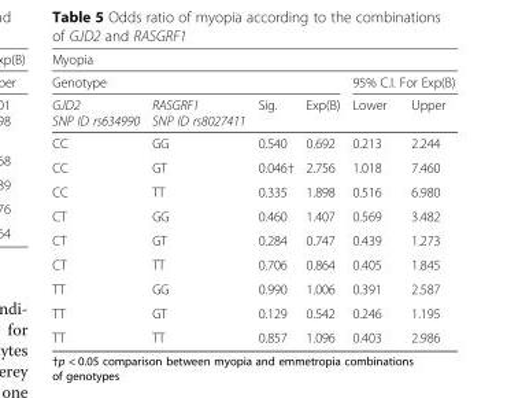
<table><thead><tr><td colspan="6">Myopia</td></tr><tr><td colspan="4">Genotype</td><td colspan="2">95% C.I. For Exp(B)</td></tr><tr><td>GJD2 SNP ID rs634990</td><td>RASGRF1 SNP ID rs8027411</td><td>Sig.</td><td>Exp(B)</td><td>Lower</td><td>Upper</td></tr></thead><tbody><tr><td>CC</td><td>GG</td><td>0.540</td><td>0.692</td><td>0.213</td><td>2.244</td></tr><tr><td>CC</td><td>GT</td><td>0.046†</td><td>2.756</td><td>1.018</td><td>7.460</td></tr><tr><td>CC</td><td>TT</td><td>0.335</td><td>1.898</td><td>0.516</td><td>6.980</td></tr><tr><td>CT</td><td>GG</td><td>0.460</td><td>1.407</td><td>0.569</td><td>3.482</td></tr><tr><td>CT</td><td>GT</td><td>0.284</td><td>0.747</td><td>0.439</td><td>1.273</td></tr><tr><td>CT</td><td>TT</td><td>0.706</td><td>0.864</td><td>0.405</td><td>1.845</td></tr><tr><td>TT</td><td>GG</td><td>0.990</td><td>1.006</td><td>0.391</td><td>2.587</td></tr><tr><td>TT</td><td>GT</td><td>0.129</td><td>0.542</td><td>0.246</td><td>1.195</td></tr><tr><td>TT</td><td>TT</td><td>0.857</td><td>1.096</td><td>0.403</td><td>2.986</td></tr></tbody></table>